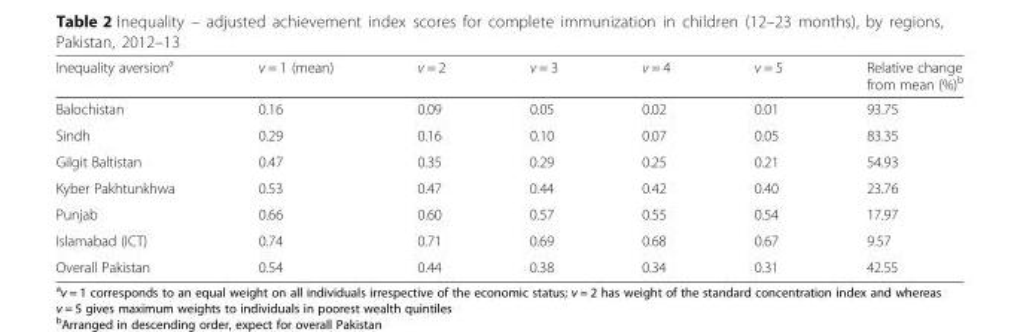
<table><thead><tr><td>Inequality aversion<sup>a</sup></td><td>v = 1 (mean)</td><td>v = 2</td><td>v = 3</td><td>v = 4</td><td>v = 5</td><td>Relative change from mean (%)<sup>b</sup></td></tr></thead><tbody><tr><td>Balochistan</td><td>0.16</td><td>0.09</td><td>0.05</td><td>0.02</td><td>0.01</td><td>93.75</td></tr><tr><td>Sindh</td><td>0.29</td><td>0.16</td><td>0.10</td><td>0.07</td><td>0.05</td><td>83.35</td></tr><tr><td>Gilgit Baltistan</td><td>0.47</td><td>0.35</td><td>0.29</td><td>0.25</td><td>0.21</td><td>54.93</td></tr><tr><td>Kyber Pakhtunkhwa</td><td>0.53</td><td>0.47</td><td>0.44</td><td>0.42</td><td>0.40</td><td>23.76</td></tr><tr><td>Punjab</td><td>0.66</td><td>0.60</td><td>0.57</td><td>0.55</td><td>0.54</td><td>17.97</td></tr><tr><td>Islamabad (ICT)</td><td>0.74</td><td>0.71</td><td>0.69</td><td>0.68</td><td>0.67</td><td>9.57</td></tr><tr><td>Overall Pakistan</td><td>0.54</td><td>0.44</td><td>0.38</td><td>0.34</td><td>0.31</td><td>42.55</td></tr></tbody></table>